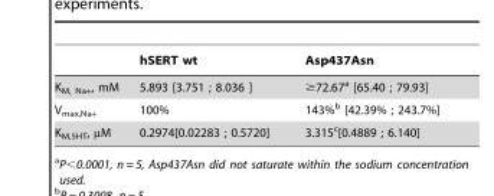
<table><thead><tr><td></td><td>hSERT wt</td><td>Asp437Asn</td></tr></thead><tbody><tr><td>K<sub>M, Na+</sub>, mM</td><td>5.893 [3.751 ; 8.036 ]</td><td>≥72.67<sup>a</sup> [65.40 ; 79.93]</td></tr><tr><td>V<sub>max,Na+</sub></td><td>100%</td><td>143%<sup>b</sup> [42.39% ; 243.7%]</td></tr><tr><td>K<sub>M,5HT</sub>, µM</td><td>0.2974[0.02283 ; 0.5720]</td><td>3.315<sup>c</sup>[0.4889 ; 6.140]</td></tr></tbody></table>